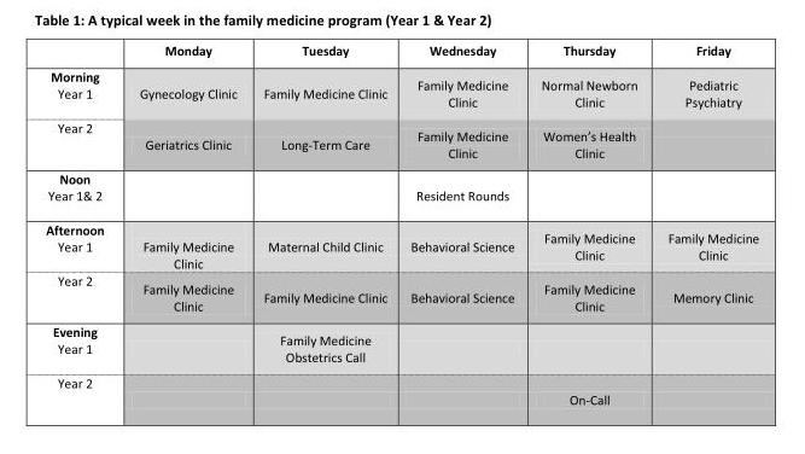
<table><thead><tr><td></td><td>Monday</td><td>Tuesday</td><td>Wednesday</td><td>Thursday</td><td>Friday</td></tr></thead><tbody><tr><td>Morning Year 1</td><td>Gynecology Clinic</td><td>Family Medicine Clinic</td><td>Family Medicine Clinic</td><td>Normal Newborn Clinic</td><td>Pediatric Psychiatry</td></tr><tr><td>Year 2</td><td>Geriatrics Clinic</td><td>Long-Term Care</td><td>Family Medicine Clinic</td><td>Women’s Health Clinic</td><td></td></tr><tr><td>Noon Year 1&amp; 2</td><td></td><td></td><td>Resident Rounds</td><td></td><td></td></tr><tr><td>Afternoon Year 1</td><td>Family Medicine Clinic</td><td>Maternal Child Clinic</td><td>Behavioral Science</td><td>Family Medicine Clinic</td><td>Family Medicine Clinic</td></tr><tr><td>Year 2</td><td>Family Medicine Clinic</td><td>Family Medicine Clinic</td><td>Behavioral Science</td><td>Family Medicine Clinic</td><td>Memory Clinic</td></tr><tr><td>Evening Year 1</td><td></td><td>Family Medicine Obstetrics Call</td><td></td><td></td><td></td></tr><tr><td>Year 2</td><td></td><td></td><td></td><td>On-Call</td><td></td></tr></tbody></table>